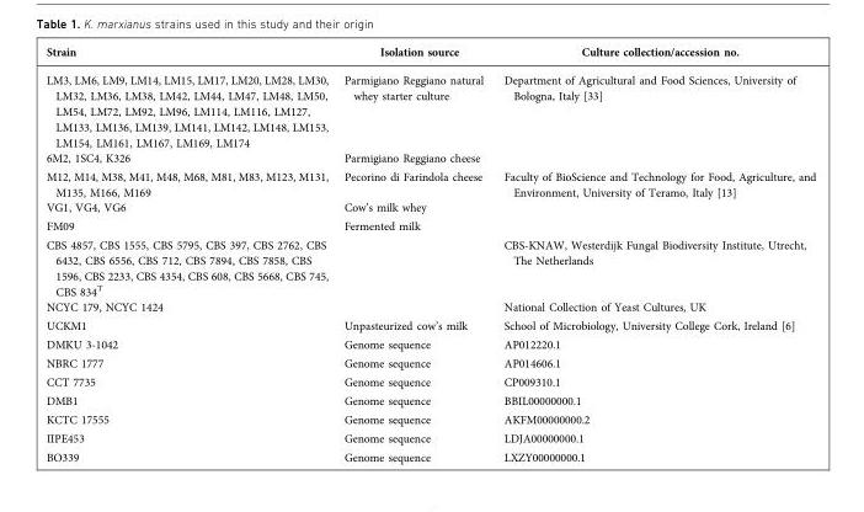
<table><thead><tr><td>Strain</td><td>Isolation source</td><td>Culture collection/accession no.</td></tr></thead><tbody><tr><td>LM3, LM6, LM9, LM14, LM15, LM17, LM20, LM28, LM30, LM32, LM36, LM38, LM42, LM44, LM47, LM48, LM50, LM54, LM72, LM92, LM96, LM114, LM116, LM127, LM133, LM136, LM139, LM141, LM142, LM148, LM153, LM154, LM161, LM167, LM169, LM174</td><td>Parmigiano Reggiano natural whey starter culture</td><td rowspan="2">Department of Agricultural and Food Sciences, University of Bologna, Italy [33]</td></tr><tr><td>6M2, 1SC4, K326</td><td>Parmigiano Reggiano cheese</td></tr><tr><td>M12, M14, M38, M41, M48, M68, M81, M83, M123, M131, M135, M166, M169</td><td>Pecorino di Farindola cheese</td><td rowspan="3">Faculty of BioScience and Technology for Food, Agriculture, and Environment, University of Teramo, Italy [13]</td></tr><tr><td>VG1, VG4, VG6</td><td>Cow’s milk whey</td></tr><tr><td>FM09</td><td>Fermented milk</td></tr><tr><td>CBS 4857, CBS 1555, CBS 5795, CBS 397, CBS 2762, CBS 6432, CBS 6556, CBS 712, CBS 7894, CBS 7858, CBS 1596, CBS 2233, CBS 4354, CBS 608, CBS 5668, CBS 745, CBS 834<sup>T</sup></td><td></td><td>CBS-KNAW, Westerdijk Fungal Biodiversity Institute, Utrecht, The Netherlands</td></tr><tr><td>NCYC 179, NCYC 1424</td><td></td><td>National Collection of Yeast Cultures, UK</td></tr><tr><td>UCKM1</td><td>Unpasteurized cow’s milk</td><td>School of Microbiology, University College Cork, Ireland [6]</td></tr><tr><td>DMKU 3-1042</td><td>Genome sequence</td><td>AP012220.1</td></tr><tr><td>NBRC 1777</td><td>Genome sequence</td><td>AP014606.1</td></tr><tr><td>CCT 7735</td><td>Genome sequence</td><td>CP009310.1</td></tr><tr><td>DMB1</td><td>Genome sequence</td><td>BBIL00000000.1</td></tr><tr><td>KCTC 17555</td><td>Genome sequence</td><td>AKFM00000000.2</td></tr><tr><td>IIPE453</td><td>Genome sequence</td><td>LDJA00000000.1</td></tr><tr><td>BO339</td><td>Genome sequence</td><td>LXZY00000000.1</td></tr></tbody></table>